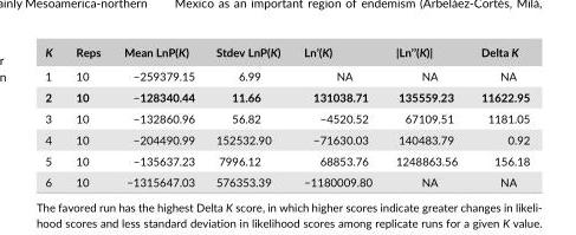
<table><thead><tr><td>K</td><td>Reps</td><td>Mean LnP(K)</td><td>Stdev LnP(K)</td><td>Ln’(K)</td><td>|Ln’’(K)|</td><td>Delta K</td></tr></thead><tbody><tr><td>1</td><td>10</td><td>−259379.15</td><td>6.99</td><td>NA</td><td>NA</td><td>NA</td></tr><tr><td>2</td><td>10</td><td>−128340.44</td><td>11.66</td><td>131038.71</td><td>135559.23</td><td>11622.95</td></tr><tr><td>3</td><td>10</td><td>−132860.96</td><td>56.82</td><td>−4520.52</td><td>67109.51</td><td>1181.05</td></tr><tr><td>4</td><td>10</td><td>−204490.99</td><td>152532.90</td><td>−71630.03</td><td>140483.79</td><td>0.92</td></tr><tr><td>5</td><td>10</td><td>−135637.23</td><td>7996.12</td><td>68853.76</td><td>1248863.56</td><td>156.18</td></tr><tr><td>6</td><td>10</td><td>−1315647.03</td><td>576353.39</td><td>−1180009.80</td><td>NA</td><td>NA</td></tr></tbody></table>